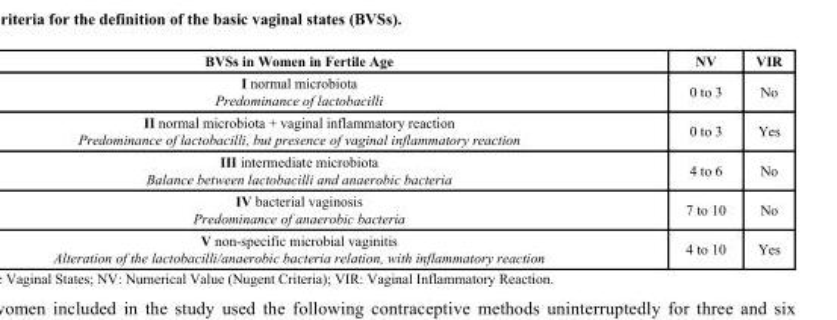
<table><thead><tr><td>BVSs in Women in Fertile Age</td><td>NV</td><td>VIR</td></tr></thead><tbody><tr><td>I normal microbiota Predominance of lactobacilli</td><td>0 to 3</td><td>No</td></tr><tr><td>II normal microbiota + vaginal inflammatory reaction Predominance of lactobacilli, but presence of vaginal inflammatory reaction</td><td>0 to 3</td><td>Yes</td></tr><tr><td>III intermediate microbiota Balance between lactobacilli and anaerobic bacteria</td><td>4 to 6</td><td>No</td></tr><tr><td>IV bacterial vaginosis Predominance of anaerobic bacteria</td><td>7 to 10</td><td>No</td></tr><tr><td>V non-specific microbial vaginitis Alteration of the lactobacilli/anaerobic bacteria relation, with inflammatory reaction</td><td>4 to 10</td><td>Yes</td></tr></tbody></table>